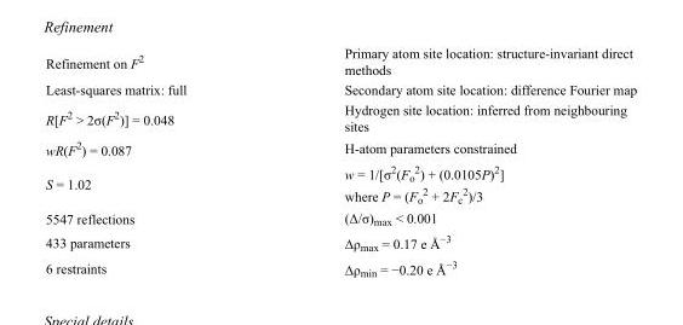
<table><tbody><tr><td>Refinement on F<sup>2</sup></td><td>Primary atom site location: structure-invariant direct methods</td></tr><tr><td>Least-squares matrix: full</td><td>Secondary atom site location: difference Fourier map</td></tr><tr><td>R[F<sup>2</sup> &gt; 2σ(F<sup>2</sup>)] = 0.048</td><td>Hydrogen site location: inferred from neighbouring sites</td></tr><tr><td>wR(F<sup>2</sup>) = 0.087</td><td>H-atom parameters constrained</td></tr><tr><td>S = 1.02</td><td>w = 1/[σ<sup>2</sup>(F<sub>o</sub> <sup>2</sup>) + (0.0105P)<sup>2</sup>] where P = (F<sub>o</sub> <sup>2</sup> + 2F<sub>c</sub> <sup>2</sup>)/3</td></tr><tr><td>5547 reflections</td><td>(Δ/σ)<sub>max</sub> &lt; 0.001</td></tr><tr><td>433 parameters</td><td>Δρ<sub>max</sub> = 0.17 e Å<sup>−3</sup></td></tr><tr><td>6 restraints</td><td>Δρ<sub>min</sub> = −0.20 e Å<sup>−3</sup></td></tr></tbody></table>